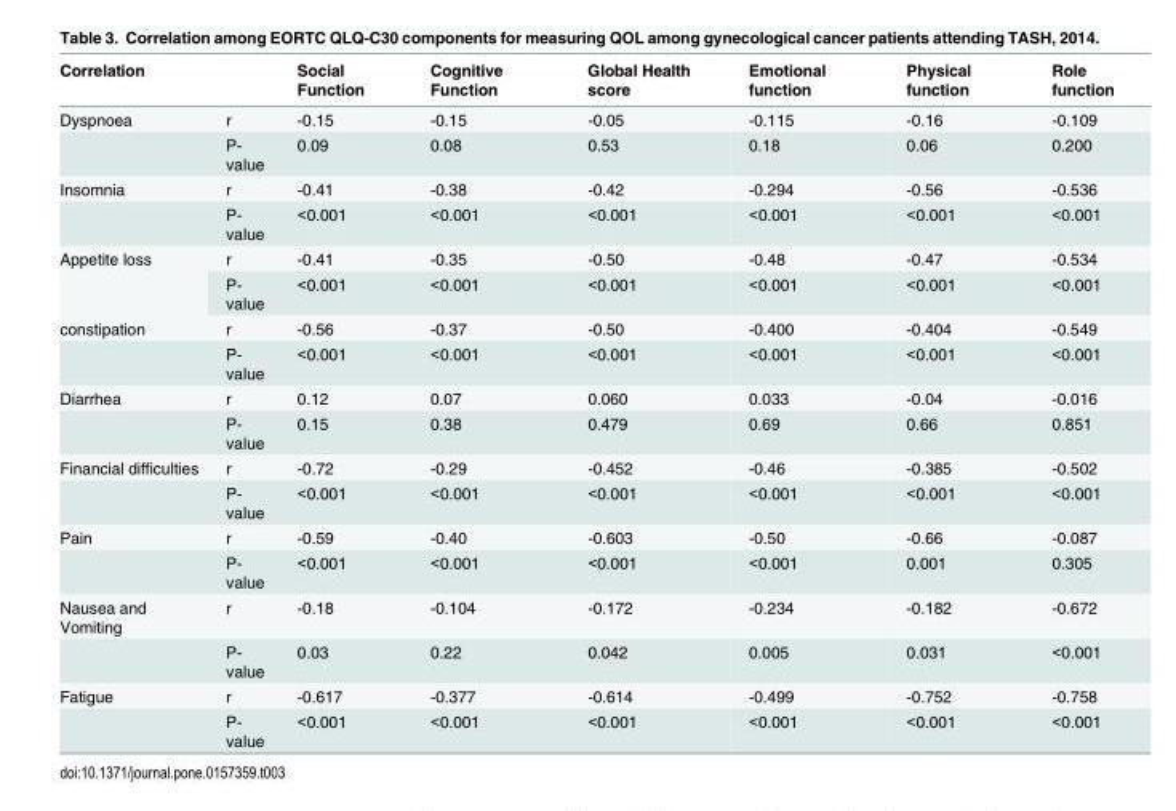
<table><thead><tr><td colspan="2">Correlation</td><td rowspan="2">Social Function -0.15</td><td rowspan="2">Cognitive Function -0.15</td><td rowspan="2">Global Health score -0.05</td><td rowspan="2">Emotional function -0.115</td><td rowspan="2">Physical function -0.16</td><td rowspan="2">Role function -0.109</td></tr><tr><td>Dyspnoea</td><td>r</td></tr></thead><tbody><tr><td></td><td>P- value</td><td>0.09</td><td>0.08</td><td>0.53</td><td>0.18</td><td>0.06</td><td>0.200</td></tr><tr><td rowspan="2">Insomnia</td><td>r</td><td>-0.41</td><td>-0.38</td><td>-0.42</td><td>-0.294</td><td>-0.56</td><td>-0.536</td></tr><tr><td>P- value</td><td>&lt;0.001</td><td>&lt;0.001</td><td>&lt;0.001</td><td>&lt;0.001</td><td>&lt;0.001</td><td>&lt;0.001</td></tr><tr><td rowspan="2">Appetite loss</td><td>r</td><td>-0.41</td><td>-0.35</td><td>-0.50</td><td>-0.48</td><td>-0.47</td><td>-0.534</td></tr><tr><td>P- value</td><td>&lt;0.001</td><td>&lt;0.001</td><td>&lt;0.001</td><td>&lt;0.001</td><td>&lt;0.001</td><td>&lt;0.001</td></tr><tr><td rowspan="2">constipation</td><td>r</td><td>-0.56</td><td>-0.37</td><td>-0.50</td><td>-0.400</td><td>-0.404</td><td>-0.549</td></tr><tr><td>P- value</td><td>&lt;0.001</td><td>&lt;0.001</td><td>&lt;0.001</td><td>&lt;0.001</td><td>&lt;0.001</td><td>&lt;0.001</td></tr><tr><td rowspan="2">Diarrhea</td><td>r</td><td>0.12</td><td>0.07</td><td>0.060</td><td>0.033</td><td>-0.04</td><td>-0.016</td></tr><tr><td>P- value</td><td>0.15</td><td>0.38</td><td>0.479</td><td>0.69</td><td>0.66</td><td>0.851</td></tr><tr><td rowspan="2">Financial difficulties</td><td>r</td><td>-0.72</td><td>-0.29</td><td>-0.452</td><td>-0.46</td><td>-0.385</td><td>-0.502</td></tr><tr><td>P- value</td><td>&lt;0.001</td><td>&lt;0.001</td><td>&lt;0.001</td><td>&lt;0.001</td><td>&lt;0.001</td><td>&lt;0.001</td></tr><tr><td rowspan="2">Pain</td><td>r</td><td>-0.59</td><td>-0.40</td><td>-0.603</td><td>-0.50</td><td>-0.66</td><td>-0.087</td></tr><tr><td>P- value</td><td>&lt;0.001</td><td>&lt;0.001</td><td>&lt;0.001</td><td>&lt;0.001</td><td>0.001</td><td>0.305</td></tr><tr><td rowspan="2">Nausea and Vomiting</td><td>r</td><td>-0.18</td><td>-0.104</td><td>-0.172</td><td>-0.234</td><td>-0.182</td><td>-0.672</td></tr><tr><td>P- value</td><td>0.03</td><td>0.22</td><td>0.042</td><td>0.005</td><td>0.031</td><td>&lt;0.001</td></tr><tr><td rowspan="2">Fatigue</td><td>r</td><td>-0.617</td><td>-0.377</td><td>-0.614</td><td>-0.499</td><td>-0.752</td><td>-0.758</td></tr><tr><td>P- value</td><td>&lt;0.001</td><td>&lt;0.001</td><td>&lt;0.001</td><td>&lt;0.001</td><td>&lt;0.001</td><td>&lt;0.001</td></tr></tbody></table>